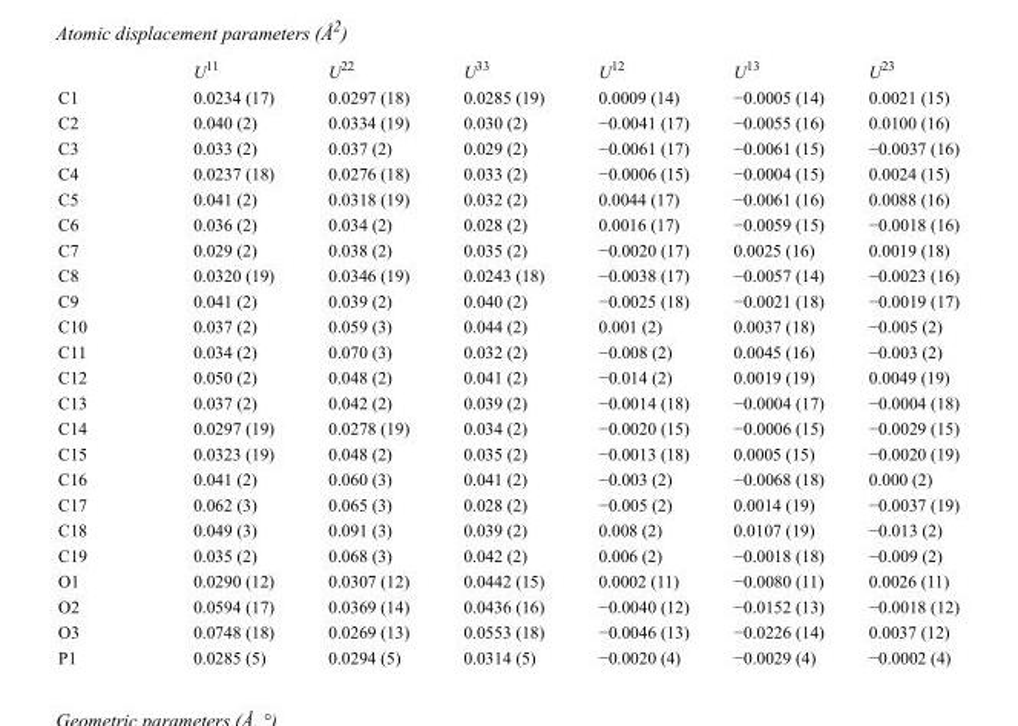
<table><thead><tr><td></td><td>U<sup>11</sup></td><td>U<sup>22</sup></td><td>U<sup>33</sup></td><td>U<sup>12</sup></td><td>U<sup>13</sup></td><td>U<sup>23</sup></td></tr></thead><tbody><tr><td>C1</td><td>0.0234 (17)</td><td>0.0297 (18)</td><td>0.0285 (19)</td><td>0.0009 (14)</td><td>−0.0005 (14)</td><td>0.0021 (15)</td></tr><tr><td>C2</td><td>0.040 (2)</td><td>0.0334 (19)</td><td>0.030 (2)</td><td>−0.0041 (17)</td><td>−0.0055 (16)</td><td>0.0100 (16)</td></tr><tr><td>C3</td><td>0.033 (2)</td><td>0.037 (2)</td><td>0.029 (2)</td><td>−0.0061 (17)</td><td>−0.0061 (15)</td><td>−0.0037 (16)</td></tr><tr><td>C4</td><td>0.0237 (18)</td><td>0.0276 (18)</td><td>0.033 (2)</td><td>−0.0006 (15)</td><td>−0.0004 (15)</td><td>0.0024 (15)</td></tr><tr><td>C5</td><td>0.041 (2)</td><td>0.0318 (19)</td><td>0.032 (2)</td><td>0.0044 (17)</td><td>−0.0061 (16)</td><td>0.0088 (16)</td></tr><tr><td>C6</td><td>0.036 (2)</td><td>0.034 (2)</td><td>0.028 (2)</td><td>0.0016 (17)</td><td>−0.0059 (15)</td><td>−0.0018 (16)</td></tr><tr><td>C7</td><td>0.029 (2)</td><td>0.038 (2)</td><td>0.035 (2)</td><td>−0.0020 (17)</td><td>0.0025 (16)</td><td>0.0019 (18)</td></tr><tr><td>C8</td><td>0.0320 (19)</td><td>0.0346 (19)</td><td>0.0243 (18)</td><td>−0.0038 (17)</td><td>−0.0057 (14)</td><td>−0.0023 (16)</td></tr><tr><td>C9</td><td>0.041 (2)</td><td>0.039 (2)</td><td>0.040 (2)</td><td>−0.0025 (18)</td><td>−0.0021 (18)</td><td>−0.0019 (17)</td></tr><tr><td>C10</td><td>0.037 (2)</td><td>0.059 (3)</td><td>0.044 (2)</td><td>0.001 (2)</td><td>0.0037 (18)</td><td>−0.005 (2)</td></tr><tr><td>C11</td><td>0.034 (2)</td><td>0.070 (3)</td><td>0.032 (2)</td><td>−0.008 (2)</td><td>0.0045 (16)</td><td>−0.003 (2)</td></tr><tr><td>C12</td><td>0.050 (2)</td><td>0.048 (2)</td><td>0.041 (2)</td><td>−0.014 (2)</td><td>0.0019 (19)</td><td>0.0049 (19)</td></tr><tr><td>C13</td><td>0.037 (2)</td><td>0.042 (2)</td><td>0.039 (2)</td><td>−0.0014 (18)</td><td>−0.0004 (17)</td><td>−0.0004 (18)</td></tr><tr><td>C14</td><td>0.0297 (19)</td><td>0.0278 (19)</td><td>0.034 (2)</td><td>−0.0020 (15)</td><td>−0.0006 (15)</td><td>−0.0029 (15)</td></tr><tr><td>C15</td><td>0.0323 (19)</td><td>0.048 (2)</td><td>0.035 (2)</td><td>−0.0013 (18)</td><td>0.0005 (15)</td><td>−0.0020 (19)</td></tr><tr><td>C16</td><td>0.041 (2)</td><td>0.060 (3)</td><td>0.041 (2)</td><td>−0.003 (2)</td><td>−0.0068 (18)</td><td>0.000 (2)</td></tr><tr><td>C17</td><td>0.062 (3)</td><td>0.065 (3)</td><td>0.028 (2)</td><td>−0.005 (2)</td><td>0.0014 (19)</td><td>−0.0037 (19)</td></tr><tr><td>C18</td><td>0.049 (3)</td><td>0.091 (3)</td><td>0.039 (2)</td><td>0.008 (2)</td><td>0.0107 (19)</td><td>−0.013 (2)</td></tr><tr><td>C19</td><td>0.035 (2)</td><td>0.068 (3)</td><td>0.042 (2)</td><td>0.006 (2)</td><td>−0.0018 (18)</td><td>−0.009 (2)</td></tr><tr><td>O1</td><td>0.0290 (12)</td><td>0.0307 (12)</td><td>0.0442 (15)</td><td>0.0002 (11)</td><td>−0.0080 (11)</td><td>0.0026 (11)</td></tr><tr><td>O2</td><td>0.0594 (17)</td><td>0.0369 (14)</td><td>0.0436 (16)</td><td>−0.0040 (12)</td><td>−0.0152 (13)</td><td>−0.0018 (12)</td></tr><tr><td>O3</td><td>0.0748 (18)</td><td>0.0269 (13)</td><td>0.0553 (18)</td><td>−0.0046 (13)</td><td>−0.0226 (14)</td><td>0.0037 (12)</td></tr><tr><td>P1</td><td>0.0285 (5)</td><td>0.0294 (5)</td><td>0.0314 (5)</td><td>−0.0020 (4)</td><td>−0.0029 (4)</td><td>−0.0002 (4)</td></tr></tbody></table>